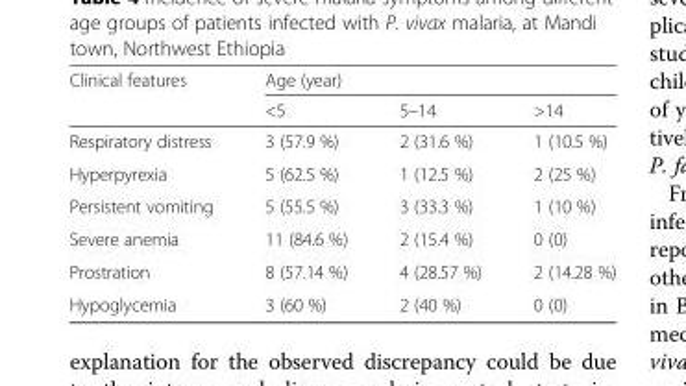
<table><thead><tr><td rowspan="2">Clinical features</td><td colspan="3">Age (year)</td></tr><tr><td>&lt;5</td><td>5–14</td><td>&gt;14</td></tr></thead><tbody><tr><td>Respiratory distress</td><td>3 (57.9 %)</td><td>2 (31.6 %)</td><td>1 (10.5 %)</td></tr><tr><td>Hyperpyrexia</td><td>5 (62.5 %)</td><td>1 (12.5 %)</td><td>2 (25 %)</td></tr><tr><td>Persistent vomiting</td><td>5 (55.5 %)</td><td>3 (33.3 %)</td><td>1 (10 %)</td></tr><tr><td>Severe anemia</td><td>11 (84.6 %)</td><td>2 (15.4 %)</td><td>0 (0)</td></tr><tr><td>Prostration</td><td>8 (57.14 %)</td><td>4 (28.57 %)</td><td>2 (14.28 %)</td></tr><tr><td>Hypoglycemia</td><td>3 (60 %)</td><td>2 (40 %)</td><td>0 (0)</td></tr></tbody></table>